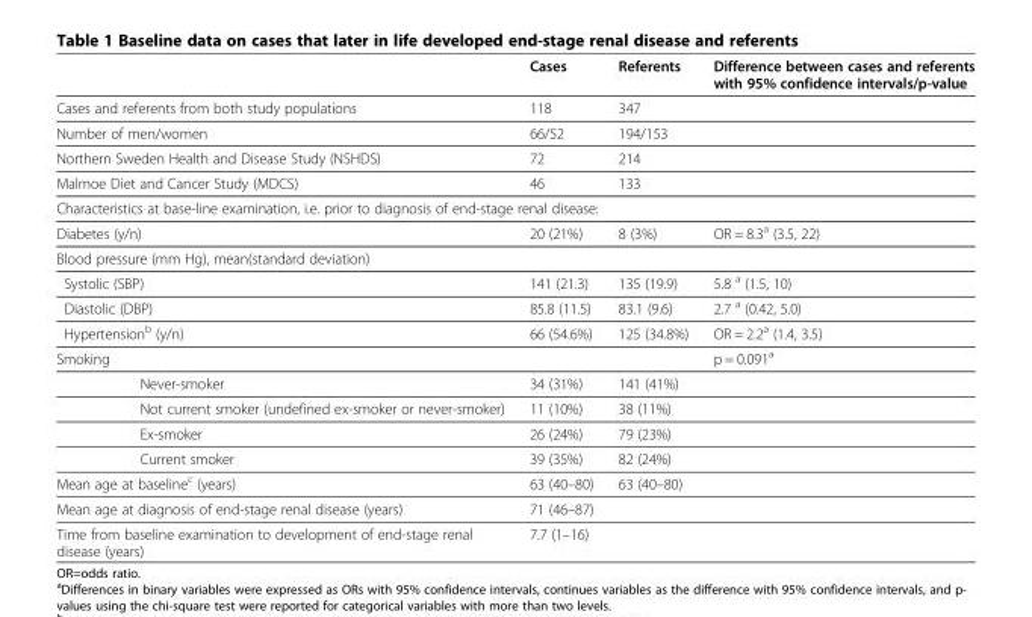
<table><thead><tr><td></td><td>Cases</td><td>Referents</td><td>Difference between cases and referents with 95% confidence intervals/p-value</td></tr></thead><tbody><tr><td>Cases and referents from both study populations</td><td>118</td><td>347</td><td></td></tr><tr><td>Number of men/women</td><td>66/52</td><td>194/153</td><td></td></tr><tr><td>Northern Sweden Health and Disease Study (NSHDS)</td><td>72</td><td>214</td><td></td></tr><tr><td>Malmoe Diet and Cancer Study (MDCS)</td><td>46</td><td>133</td><td></td></tr><tr><td colspan="4">Characteristics at base-line examination, i.e. prior to diagnosis of end-stage renal disease:</td></tr><tr><td>Diabetes (y/n)</td><td>20 (21%)</td><td>8 (3%)</td><td>OR = 8.3<sup>a</sup> (3.5, 22)</td></tr><tr><td colspan="4">Blood pressure (mm Hg), mean(standard deviation)</td></tr><tr><td>Systolic (SBP)</td><td>141 (21.3)</td><td>135 (19.9)</td><td>5.8 <sup>a</sup> (1.5, 10)</td></tr><tr><td>Diastolic (DBP)</td><td>85.8 (11.5)</td><td>83.1 (9.6)</td><td>2.7 <sup>a</sup> (0.42, 5.0)</td></tr><tr><td>Hypertension<sup>b</sup> (y/n)</td><td>66 (54.6%)</td><td>125 (34.8%)</td><td>OR = 2.2<sup>a</sup> (1.4, 3.5)</td></tr><tr><td>Smoking</td><td></td><td></td><td>p = 0.091<sup>a</sup></td></tr><tr><td>Never-smoker</td><td>34 (31%)</td><td>141 (41%)</td><td></td></tr><tr><td>Not current smoker (undefined ex-smoker or never-smoker)</td><td>11 (10%)</td><td>38 (11%)</td><td></td></tr><tr><td>Ex-smoker</td><td>26 (24%)</td><td>79 (23%)</td><td></td></tr><tr><td>Current smoker</td><td>39 (35%)</td><td>82 (24%)</td><td></td></tr><tr><td>Mean age at baseline<sup>c</sup> (years)</td><td>63 (40–80)</td><td>63 (40–80)</td><td></td></tr><tr><td>Mean age at diagnosis of end-stage renal disease (years)</td><td>71 (46–87)</td><td></td><td></td></tr><tr><td>Time from baseline examination to development of end-stage renal disease (years)</td><td>7.7 (1–16)</td><td></td><td></td></tr></tbody></table>